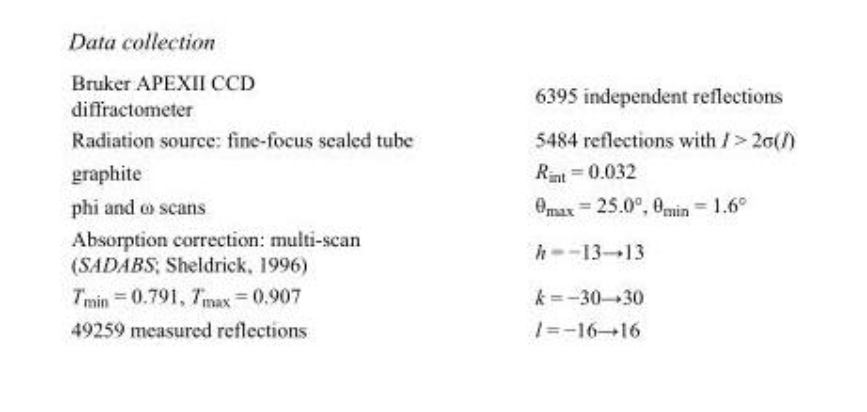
<table><tbody><tr><td>Bruker APEXII CCD diffractometer</td><td>6395 independent reflections</td></tr><tr><td>Radiation source: fine-focus sealed tube</td><td>5484 reflections with I &gt; 2σ(I)</td></tr><tr><td>graphite</td><td>R<sub>int</sub> = 0.032</td></tr><tr><td>phi and ω scans</td><td>θ<sub>max</sub> = 25.0°, θ<sub>min</sub> = 1.6°</td></tr><tr><td>Absorption correction: multi-scan (SADABS; Sheldrick, 1996)</td><td>h = −13→13</td></tr><tr><td>T<sub>min</sub> = 0.791, T<sub>max</sub> = 0.907</td><td>k = −30→30</td></tr><tr><td>49259 measured reflections</td><td>l = −16→16</td></tr></tbody></table>